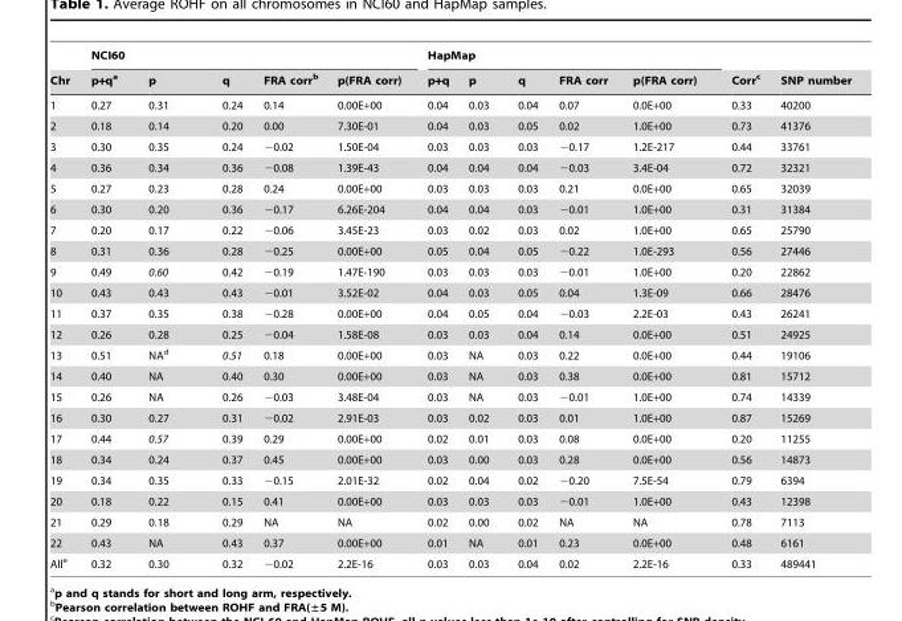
<table><thead><tr><td rowspan="2">Chr</td><td colspan="5">NCI60</td><td colspan="5">HapMap</td><td rowspan="2">Corr<sup>c</sup></td><td rowspan="2">SNP number</td></tr><tr><td>p+q<sup>a</sup></td><td>p</td><td>q</td><td>FRA corr<sup>b</sup></td><td>p(FRA corr)</td><td>p+q</td><td>p</td><td>q</td><td>FRA corr</td><td>p(FRA corr)</td></tr></thead><tbody><tr><td>1</td><td>0.27</td><td>0.31</td><td>0.24</td><td>0.14</td><td>0.00E+00</td><td>0.04</td><td>0.03</td><td>0.04</td><td>0.07</td><td>0.0E+00</td><td>0.33</td><td>40200</td></tr><tr><td>2</td><td>0.18</td><td>0.14</td><td>0.20</td><td>0.00</td><td>7.30E-01</td><td>0.04</td><td>0.03</td><td>0.05</td><td>0.02</td><td>1.0E+00</td><td>0.73</td><td>41376</td></tr><tr><td>3</td><td>0.30</td><td>0.35</td><td>0.24</td><td>−0.02</td><td>1.50E-04</td><td>0.03</td><td>0.03</td><td>0.03</td><td>−0.17</td><td>1.2E-217</td><td>0.44</td><td>33761</td></tr><tr><td>4</td><td>0.36</td><td>0.34</td><td>0.36</td><td>−0.08</td><td>1.39E-43</td><td>0.04</td><td>0.04</td><td>0.04</td><td>−0.03</td><td>3.4E-04</td><td>0.72</td><td>32321</td></tr><tr><td>5</td><td>0.27</td><td>0.23</td><td>0.28</td><td>0.24</td><td>0.00E+00</td><td>0.03</td><td>0.03</td><td>0.03</td><td>0.21</td><td>0.0E+00</td><td>0.65</td><td>32039</td></tr><tr><td>6</td><td>0.30</td><td>0.20</td><td>0.36</td><td>−0.17</td><td>6.26E-204</td><td>0.04</td><td>0.04</td><td>0.03</td><td>−0.01</td><td>1.0E+00</td><td>0.31</td><td>31384</td></tr><tr><td>7</td><td>0.20</td><td>0.17</td><td>0.22</td><td>−0.06</td><td>3.45E-23</td><td>0.03</td><td>0.02</td><td>0.03</td><td>0.02</td><td>1.0E+00</td><td>0.65</td><td>25790</td></tr><tr><td>8</td><td>0.31</td><td>0.36</td><td>0.28</td><td>−0.25</td><td>0.00E+00</td><td>0.05</td><td>0.04</td><td>0.05</td><td>−0.22</td><td>1.0E-293</td><td>0.56</td><td>27446</td></tr><tr><td>9</td><td>0.49</td><td>0.60</td><td>0.42</td><td>−0.19</td><td>1.47E-190</td><td>0.03</td><td>0.03</td><td>0.03</td><td>−0.01</td><td>1.0E+00</td><td>0.20</td><td>22862</td></tr><tr><td>10</td><td>0.43</td><td>0.43</td><td>0.43</td><td>−0.01</td><td>3.52E-02</td><td>0.04</td><td>0.03</td><td>0.05</td><td>0.04</td><td>1.3E-09</td><td>0.66</td><td>28476</td></tr><tr><td>11</td><td>0.37</td><td>0.35</td><td>0.38</td><td>−0.28</td><td>0.00E+00</td><td>0.04</td><td>0.05</td><td>0.04</td><td>−0.03</td><td>2.2E-03</td><td>0.43</td><td>26241</td></tr><tr><td>12</td><td>0.26</td><td>0.28</td><td>0.25</td><td>−0.04</td><td>1.58E-08</td><td>0.03</td><td>0.03</td><td>0.04</td><td>0.14</td><td>0.0E+00</td><td>0.51</td><td>24925</td></tr><tr><td>13</td><td>0.51</td><td>NA<sup>d</sup></td><td>0.51</td><td>0.18</td><td>0.00E+00</td><td>0.03</td><td>NA</td><td>0.03</td><td>0.22</td><td>0.0E+00</td><td>0.44</td><td>19106</td></tr><tr><td>14</td><td>0.40</td><td>NA</td><td>0.40</td><td>0.30</td><td>0.00E+00</td><td>0.03</td><td>NA</td><td>0.03</td><td>0.38</td><td>0.0E+00</td><td>0.81</td><td>15712</td></tr><tr><td>15</td><td>0.26</td><td>NA</td><td>0.26</td><td>−0.03</td><td>3.48E-04</td><td>0.03</td><td>NA</td><td>0.03</td><td>−0.01</td><td>1.0E+00</td><td>0.74</td><td>14339</td></tr><tr><td>16</td><td>0.30</td><td>0.27</td><td>0.31</td><td>−0.02</td><td>2.91E-03</td><td>0.03</td><td>0.02</td><td>0.03</td><td>0.01</td><td>1.0E+00</td><td>0.87</td><td>15269</td></tr><tr><td>17</td><td>0.44</td><td>0.57</td><td>0.39</td><td>0.29</td><td>0.00E+00</td><td>0.02</td><td>0.01</td><td>0.03</td><td>0.08</td><td>0.0E+00</td><td>0.20</td><td>11255</td></tr><tr><td>18</td><td>0.34</td><td>0.24</td><td>0.37</td><td>0.45</td><td>0.00E+00</td><td>0.03</td><td>0.00</td><td>0.03</td><td>0.28</td><td>0.0E+00</td><td>0.56</td><td>14873</td></tr><tr><td>19</td><td>0.34</td><td>0.35</td><td>0.33</td><td>−0.15</td><td>2.01E-32</td><td>0.02</td><td>0.04</td><td>0.02</td><td>−0.20</td><td>7.5E-54</td><td>0.79</td><td>6394</td></tr><tr><td>20</td><td>0.18</td><td>0.22</td><td>0.15</td><td>0.41</td><td>0.00E+00</td><td>0.03</td><td>0.03</td><td>0.03</td><td>−0.01</td><td>1.0E+00</td><td>0.43</td><td>12398</td></tr><tr><td>21</td><td>0.29</td><td>0.18</td><td>0.29</td><td>NA</td><td>NA</td><td>0.02</td><td>0.00</td><td>0.02</td><td>NA</td><td>NA</td><td>0.78</td><td>7113</td></tr><tr><td>22</td><td>0.43</td><td>NA</td><td>0.43</td><td>0.37</td><td>0.00E+00</td><td>0.01</td><td>NA</td><td>0.01</td><td>0.23</td><td>0.0E+00</td><td>0.48</td><td>6161</td></tr><tr><td>All<sup>e</sup></td><td>0.32</td><td>0.30</td><td>0.32</td><td>−0.02</td><td>2.2E-16</td><td>0.03</td><td>0.03</td><td>0.04</td><td>0.02</td><td>2.2E-16</td><td>0.33</td><td>489441</td></tr></tbody></table>